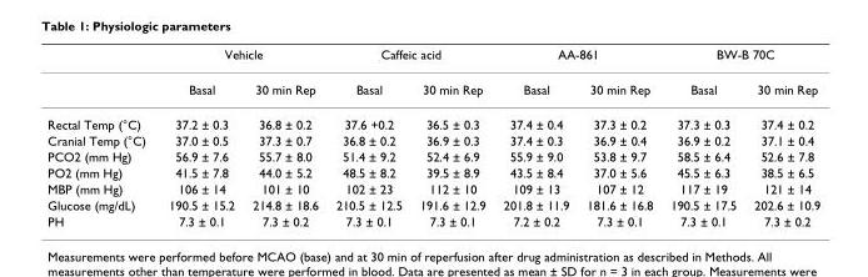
<table><thead><tr><td rowspan="2"></td><td colspan="2">Vehicle</td><td colspan="2">Caffeic acid</td><td colspan="2">AA-861</td><td colspan="2">BW-B 70C</td></tr><tr><td>Basal</td><td>30 min Rep</td><td>Basal</td><td>30 min Rep</td><td>Basal</td><td>30 min Rep</td><td>Basal</td><td>30 min Rep</td></tr></thead><tbody><tr><td>Rectal Temp (°C)</td><td>37.2 ± 0.3</td><td>36.8 ± 0.2</td><td>37.6 +0.2</td><td>36.5 ± 0.3</td><td>37.4 ± 0.4</td><td>37.3 ± 0.2</td><td>37.3 ± 0.3</td><td>37.4 ± 0.2</td></tr><tr><td>Cranial Temp (°C)</td><td>37.0 ± 0.5</td><td>37.3 ± 0.7</td><td>36.8 ± 0.2</td><td>36.9 ± 0.3</td><td>37.4 ± 0.3</td><td>36.9 ± 0.4</td><td>36.9 ± 0.2</td><td>37.1 ± 0.4</td></tr><tr><td>PCO2 (mm Hg)</td><td>56.9 ± 7.6</td><td>55.7 ± 8.0</td><td>51.4 ± 9.2</td><td>52.4 ± 6.9</td><td>55.9 ± 9.0</td><td>53.8 ± 9.7</td><td>58.5 ± 6.4</td><td>52.6 ± 7.8</td></tr><tr><td>PO2 (mm Hg)</td><td>41.5 ± 7.8</td><td>44.0 ± 5.2</td><td>48.5 ± 8.2</td><td>39.5 ± 8.9</td><td>43.5 ± 8.4</td><td>37.0 ± 5.6</td><td>45.5 ± 6.3</td><td>38.5 ± 6.5</td></tr><tr><td>MBP (mm Hg)</td><td>106 ± 14</td><td>101 ± 10</td><td>102 ± 23</td><td>112 ± 10</td><td>109 ± 13</td><td>107 ± 12</td><td>117 ± 19</td><td>121 ± 14</td></tr><tr><td>Glucose (mg/dL)</td><td>190.5 ± 15.2</td><td>214.8 ± 18.6</td><td>210.5 ± 12.5</td><td>191.6 ± 12.9</td><td>201.8 ± 11.9</td><td>181.6 ± 16.8</td><td>190.5 ± 17.5</td><td>202.6 ± 10.9</td></tr><tr><td>PH</td><td>7.3 ± 0.1</td><td>7.3 ± 0.2</td><td>7.3 ± 0.1</td><td>7.3 ± 0.1</td><td>7.2 ± 0.2</td><td>7.3 ± 0.1</td><td>7.3 ± 0.1</td><td>7.3 ± 0.2</td></tr></tbody></table>